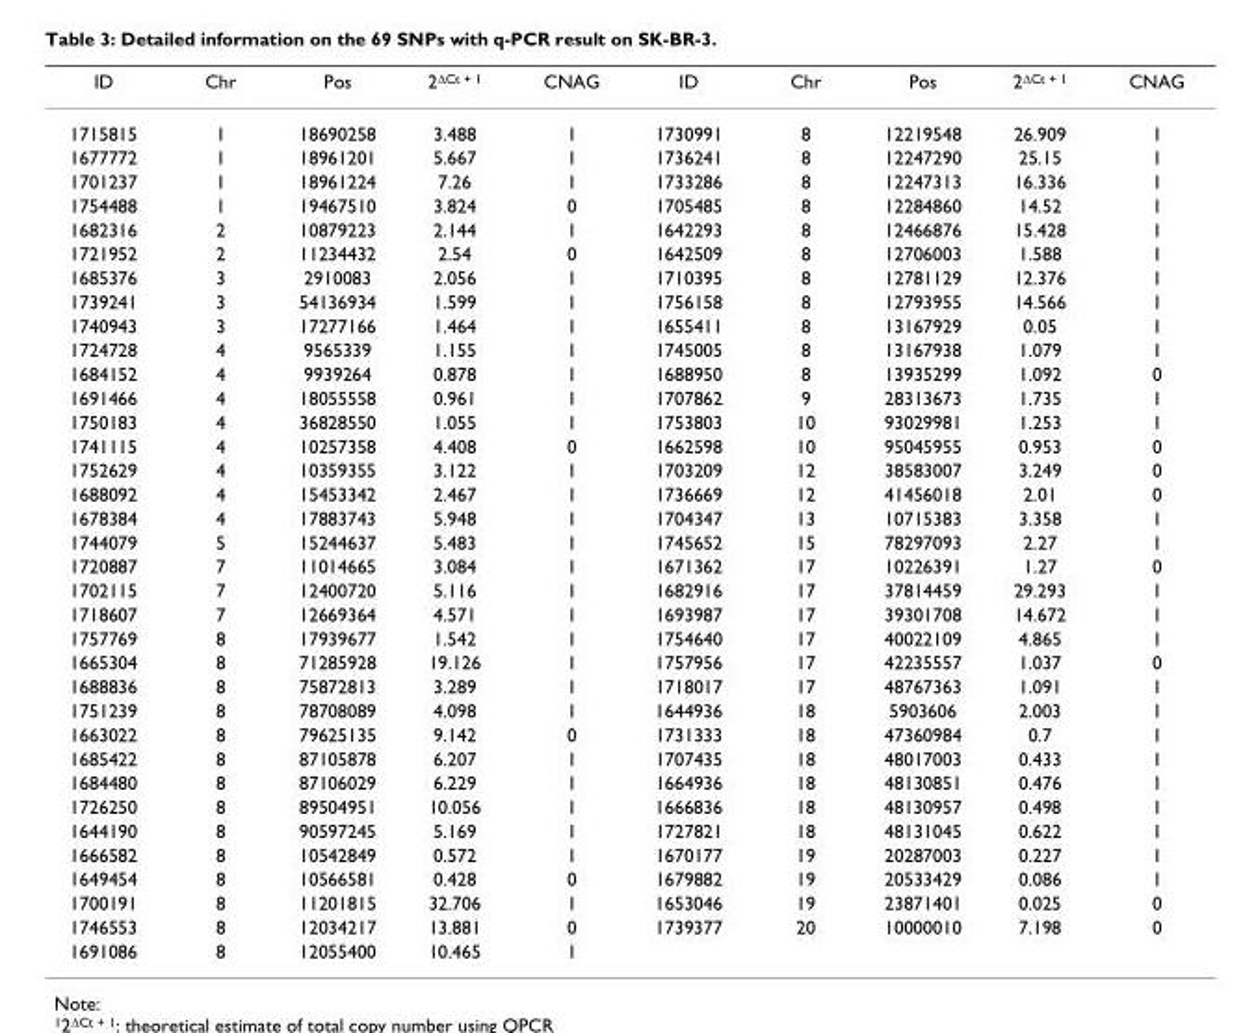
<table><thead><tr><td>ID</td><td>Chr</td><td>Pos</td><td>2∆Ct + 1</td><td>CNAG</td><td>ID</td><td>Chr</td><td>Pos</td><td>2∆Ct + 1</td><td>CNAG</td></tr></thead><tbody><tr><td>1715815</td><td>1</td><td>18690258</td><td>3.488</td><td>1</td><td>1730991</td><td>8</td><td>12219548</td><td>26.909</td><td>1</td></tr><tr><td>1677772</td><td>1</td><td>18961201</td><td>5.667</td><td>1</td><td>1736241</td><td>8</td><td>12247290</td><td>25.15</td><td>1</td></tr><tr><td>1701237</td><td>1</td><td>18961224</td><td>7.26</td><td>1</td><td>1733286</td><td>8</td><td>12247313</td><td>16.336</td><td>1</td></tr><tr><td>1754488</td><td>1</td><td>19467510</td><td>3.824</td><td>0</td><td>1705485</td><td>8</td><td>12284860</td><td>14.52</td><td>1</td></tr><tr><td>1682316</td><td>2</td><td>10879223</td><td>2.144</td><td>1</td><td>1642293</td><td>8</td><td>12466876</td><td>15.428</td><td>1</td></tr><tr><td>1721952</td><td>2</td><td>11234432</td><td>2.54</td><td>0</td><td>1642509</td><td>8</td><td>12706003</td><td>1.588</td><td>1</td></tr><tr><td>1685376</td><td>3</td><td>2910083</td><td>2.056</td><td>1</td><td>1710395</td><td>8</td><td>12781129</td><td>12.376</td><td>1</td></tr><tr><td>1739241</td><td>3</td><td>54136934</td><td>1.599</td><td>1</td><td>1756158</td><td>8</td><td>12793955</td><td>14.566</td><td>1</td></tr><tr><td>1740943</td><td>3</td><td>17277166</td><td>1.464</td><td>1</td><td>1655411</td><td>8</td><td>13167929</td><td>0.05</td><td>1</td></tr><tr><td>1724728</td><td>4</td><td>9565339</td><td>1.155</td><td>1</td><td>1745005</td><td>8</td><td>13167938</td><td>1.079</td><td>1</td></tr><tr><td>1684152</td><td>4</td><td>9939264</td><td>0.878</td><td>1</td><td>1688950</td><td>8</td><td>13935299</td><td>1.092</td><td>0</td></tr><tr><td>1691466</td><td>4</td><td>18055558</td><td>0.961</td><td>1</td><td>1707862</td><td>9</td><td>28313673</td><td>1.735</td><td>1</td></tr><tr><td>1750183</td><td>4</td><td>36828550</td><td>1.055</td><td>1</td><td>1753803</td><td>10</td><td>93029981</td><td>1.253</td><td>1</td></tr><tr><td>1741115</td><td>4</td><td>10257358</td><td>4.408</td><td>0</td><td>1662598</td><td>10</td><td>95045955</td><td>0.953</td><td>0</td></tr><tr><td>1752629</td><td>4</td><td>10359355</td><td>3.122</td><td>1</td><td>1703209</td><td>12</td><td>38583007</td><td>3.249</td><td>0</td></tr><tr><td>1688092</td><td>4</td><td>15453342</td><td>2.467</td><td>1</td><td>1736669</td><td>12</td><td>41456018</td><td>2.01</td><td>0</td></tr><tr><td>1678384</td><td>4</td><td>17883743</td><td>5.948</td><td>1</td><td>1704347</td><td>13</td><td>10715383</td><td>3.358</td><td>1</td></tr><tr><td>1744079</td><td>5</td><td>15244637</td><td>5.483</td><td>1</td><td>1745652</td><td>15</td><td>78297093</td><td>2.27</td><td>1</td></tr><tr><td>1720887</td><td>7</td><td>11014665</td><td>3.084</td><td>1</td><td>1671362</td><td>17</td><td>10226391</td><td>1.27</td><td>0</td></tr><tr><td>1702115</td><td>7</td><td>12400720</td><td>5.116</td><td>1</td><td>1682916</td><td>17</td><td>37814459</td><td>29.293</td><td>1</td></tr><tr><td>1718607</td><td>7</td><td>12669364</td><td>4.571</td><td>1</td><td>1693987</td><td>17</td><td>39301708</td><td>14.672</td><td>1</td></tr><tr><td>1757769</td><td>8</td><td>17939677</td><td>1.542</td><td>1</td><td>1754640</td><td>17</td><td>40022109</td><td>4.865</td><td>1</td></tr><tr><td>1665304</td><td>8</td><td>71285928</td><td>19.126</td><td>1</td><td>1757956</td><td>17</td><td>42235557</td><td>1.037</td><td>0</td></tr><tr><td>1688836</td><td>8</td><td>75872813</td><td>3.289</td><td>1</td><td>1718017</td><td>17</td><td>48767363</td><td>1.091</td><td>1</td></tr><tr><td>1751239</td><td>8</td><td>78708089</td><td>4.098</td><td>1</td><td>1644936</td><td>18</td><td>5903606</td><td>2.003</td><td>1</td></tr><tr><td>1663022</td><td>8</td><td>79625135</td><td>9.142</td><td>0</td><td>1731333</td><td>18</td><td>47360984</td><td>0.7</td><td>1</td></tr><tr><td>1685422</td><td>8</td><td>87105878</td><td>6.207</td><td>1</td><td>1707435</td><td>18</td><td>48017003</td><td>0.433</td><td>1</td></tr><tr><td>1684480</td><td>8</td><td>87106029</td><td>6.229</td><td>1</td><td>1664936</td><td>18</td><td>48130851</td><td>0.476</td><td>1</td></tr><tr><td>1726250</td><td>8</td><td>89504951</td><td>10.056</td><td>1</td><td>1666836</td><td>18</td><td>48130957</td><td>0.498</td><td>1</td></tr><tr><td>1644190</td><td>8</td><td>90597245</td><td>5.169</td><td>1</td><td>1727821</td><td>18</td><td>48131045</td><td>0.622</td><td>1</td></tr><tr><td>1666582</td><td>8</td><td>10542849</td><td>0.572</td><td>1</td><td>1670177</td><td>19</td><td>20287003</td><td>0.227</td><td>1</td></tr><tr><td>1649454</td><td>8</td><td>10566581</td><td>0.428</td><td>0</td><td>1679882</td><td>19</td><td>20533429</td><td>0.086</td><td>1</td></tr><tr><td>1700191</td><td>8</td><td>11201815</td><td>32.706</td><td>1</td><td>1653046</td><td>19</td><td>23871401</td><td>0.025</td><td>0</td></tr><tr><td>1746553</td><td>8</td><td>12034217</td><td>13.881</td><td>0</td><td>1739377</td><td>20</td><td>10000010</td><td>7.198</td><td>0</td></tr><tr><td>1691086</td><td>8</td><td>12055400</td><td>10.465</td><td>1</td><td></td><td></td><td></td><td></td><td></td></tr></tbody></table>